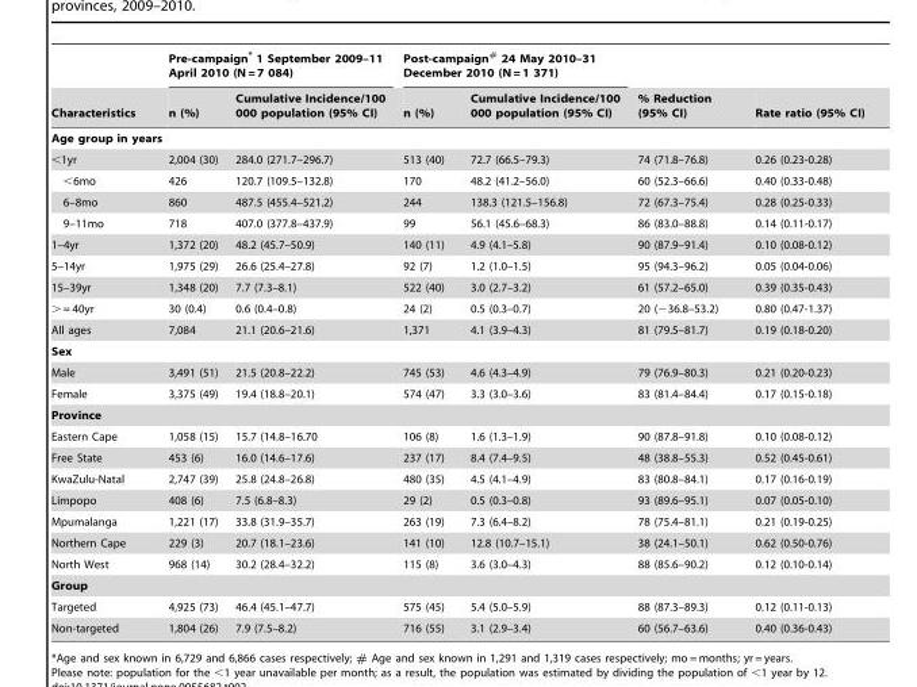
<table><thead><tr><td rowspan="2">Characteristics</td><td colspan="2">Pre-campaign* 1 September 2009–11 April 2010 (N = 7 084)</td><td colspan="2">Post-campaign<sup>#</sup> 24 May 2010–31 December 2010 (N = 1 371)</td><td rowspan="2">% Reduction (95% CI)</td><td rowspan="2">Rate ratio (95% CI)</td></tr><tr><td>n (%)</td><td>Cumulative Incidence/100 000 population (95% CI)</td><td>n (%)</td><td>Cumulative Incidence/100 000 population (95% CI)</td></tr></thead><tbody><tr><td colspan="7">Age group in years</td></tr><tr><td>&lt;1yr</td><td>2,004 (30)</td><td>284.0 (271.7–296.7)</td><td>513 (40)</td><td>72.7 (66.5–79.3)</td><td>74 (71.8–76.8)</td><td>0.26 (0.23-0.28)</td></tr><tr><td>&lt;6mo</td><td>426</td><td>120.7 (109.5–132.8)</td><td>170</td><td>48.2 (41.2–56.0)</td><td>60 (52.3–66.6)</td><td>0.40 (0.33-0.48)</td></tr><tr><td>6–8mo</td><td>860</td><td>487.5 (455.4–521.2)</td><td>244</td><td>138.3 (121.5–156.8)</td><td>72 (67.3–75.4)</td><td>0.28 (0.25-0.33)</td></tr><tr><td>9–11mo</td><td>718</td><td>407.0 (377.8–437.9)</td><td>99</td><td>56.1 (45.6–68.3)</td><td>86 (83.0–88.8)</td><td>0.14 (0.11-0.17)</td></tr><tr><td>1–4yr</td><td>1,372 (20)</td><td>48.2 (45.7–50.9)</td><td>140 (11)</td><td>4.9 (4.1–5.8)</td><td>90 (87.9–91.4)</td><td>0.10 (0.08-0.12)</td></tr><tr><td>5–14yr</td><td>1,975 (29)</td><td>26.6 (25.4–27.8)</td><td>92 (7)</td><td>1.2 (1.0–1.5)</td><td>95 (94.3–96.2)</td><td>0.05 (0.04-0.06)</td></tr><tr><td>15–39yr</td><td>1,348 (20)</td><td>7.7 (7.3–8.1)</td><td>522 (40)</td><td>3.0 (2.7–3.2)</td><td>61 (57.2–65.0)</td><td>0.39 (0.35-0.43)</td></tr><tr><td>&gt; = 40yr</td><td>30 (0.4)</td><td>0.6 (0.4–0.8)</td><td>24 (2)</td><td>0.5 (0.3–0.7)</td><td>20 (−36.8–53.2)</td><td>0.80 (0.47-1.37)</td></tr><tr><td>All ages</td><td>7,084</td><td>21.1 (20.6–21.6)</td><td>1,371</td><td>4.1 (3.9–4.3)</td><td>81 (79.5–81.7)</td><td>0.19 (0.18-0.20)</td></tr><tr><td colspan="7">Sex</td></tr><tr><td>Male</td><td>3,491 (51)</td><td>21.5 (20.8–22.2)</td><td>745 (53)</td><td>4.6 (4.3–4.9)</td><td>79 (76.9–80.3)</td><td>0.21 (0.20-0.23)</td></tr><tr><td>Female</td><td>3,375 (49)</td><td>19.4 (18.8–20.1)</td><td>574 (47)</td><td>3.3 (3.0–3.6)</td><td>83 (81.4–84.4)</td><td>0.17 (0.15-0.18)</td></tr><tr><td colspan="7">Province</td></tr><tr><td>Eastern Cape</td><td>1,058 (15)</td><td>15.7 (14.8–16.70</td><td>106 (8)</td><td>1.6 (1.3–1.9)</td><td>90 (87.8–91.8)</td><td>0.10 (0.08-0.12)</td></tr><tr><td>Free State</td><td>453 (6)</td><td>16.0 (14.6–17.6)</td><td>237 (17)</td><td>8.4 (7.4–9.5)</td><td>48 (38.8–55.3)</td><td>0.52 (0.45-0.61)</td></tr><tr><td>KwaZulu-Natal</td><td>2,747 (39)</td><td>25.8 (24.8–26.8)</td><td>480 (35)</td><td>4.5 (4.1–4.9)</td><td>83 (80.8–84.1)</td><td>0.17 (0.16-0.19)</td></tr><tr><td>Limpopo</td><td>408 (6)</td><td>7.5 (6.8–8.3)</td><td>29 (2)</td><td>0.5 (0.3–0.8)</td><td>93 (89.6–95.1)</td><td>0.07 (0.05-0.10)</td></tr><tr><td>Mpumalanga</td><td>1,221 (17)</td><td>33.8 (31.9–35.7)</td><td>263 (19)</td><td>7.3 (6.4–8.2)</td><td>78 (75.4–81.1)</td><td>0.21 (0.19-0.25)</td></tr><tr><td>Northern Cape</td><td>229 (3)</td><td>20.7 (18.1–23.6)</td><td>141 (10)</td><td>12.8 (10.7–15.1)</td><td>38 (24.1–50.1)</td><td>0.62 (0.50-0.76)</td></tr><tr><td>North West</td><td>968 (14)</td><td>30.2 (28.4–32.2)</td><td>115 (8)</td><td>3.6 (3.0–4.3)</td><td>88 (85.6–90.2)</td><td>0.12 (0.10-0.14)</td></tr><tr><td colspan="7">Group</td></tr><tr><td>Targeted</td><td>4,925 (73)</td><td>46.4 (45.1–47.7)</td><td>575 (45)</td><td>5.4 (5.0–5.9)</td><td>88 (87.3–89.3)</td><td>0.12 (0.11-0.13)</td></tr><tr><td>Non-targeted</td><td>1,804 (26)</td><td>7.9 (7.5–8.2)</td><td>716 (55)</td><td>3.1 (2.9–3.4)</td><td>60 (56.7–63.6)</td><td>0.40 (0.36-0.43)</td></tr></tbody></table>